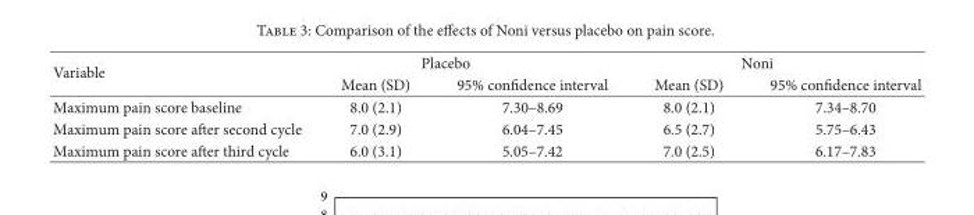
<table><thead><tr><td rowspan="2">Variable</td><td colspan="2">Placebo</td><td colspan="2">Noni</td></tr><tr><td>Mean (SD)</td><td>95% con�dence interval</td><td>Mean (SD)</td><td>95% con�dence interval</td></tr></thead><tbody><tr><td>Maximum pain score baseline</td><td>8.0 (2.1)</td><td>7.30–8.69</td><td>8.0 (2.1)</td><td>7.34–8.70</td></tr><tr><td>Maximum pain score aer second cycle</td><td>7.0 (2.9)</td><td>6.04–7.45</td><td>6.5 (2.7)</td><td>5.75–6.43</td></tr><tr><td>Maximum pain score aer third cycle</td><td>6.0 (3.1)</td><td>5.05–7.42</td><td>7.0 (2.5)</td><td>6.17–7.83</td></tr></tbody></table>